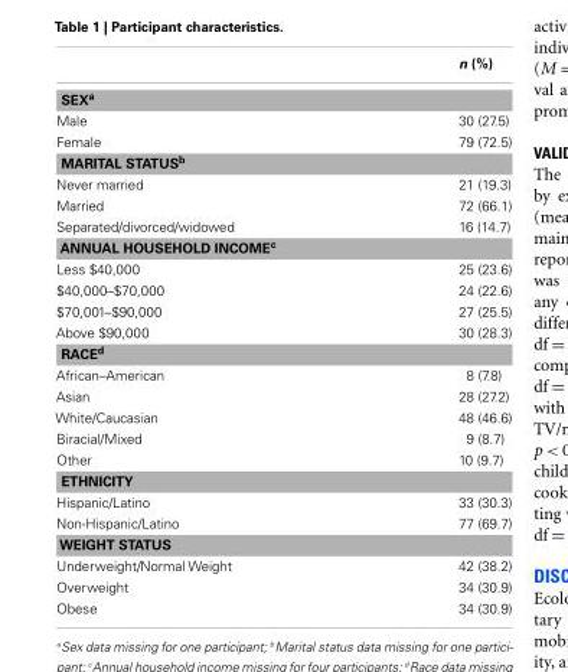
<table><thead><tr><td></td><td>n (%)</td></tr></thead><tbody><tr><td colspan="2">SEX<sup>a</sup></td></tr><tr><td>Male</td><td>30 (27.5)</td></tr><tr><td>Female</td><td>79 (72.5)</td></tr><tr><td colspan="2">MARITAL STATUS<sup>b</sup></td></tr><tr><td>Never married</td><td>21 (19.3)</td></tr><tr><td>Married</td><td>72 (66.1)</td></tr><tr><td>Separated/divorced/widowed</td><td>16 (14.7)</td></tr><tr><td colspan="2">ANNUAL HOUSEHOLD INCOME<sup>c</sup></td></tr><tr><td>Less $40,000</td><td>25 (23.6)</td></tr><tr><td>$40,000–$70,000</td><td>24 (22.6)</td></tr><tr><td>$70,001–$90,000</td><td>27 (25.5)</td></tr><tr><td>Above $90,000</td><td>30 (28.3)</td></tr><tr><td colspan="2">RACE<sup>d</sup></td></tr><tr><td>African–American</td><td>8 (7.8)</td></tr><tr><td>Asian</td><td>28 (27.2)</td></tr><tr><td>White/Caucasian</td><td>48 (46.6)</td></tr><tr><td>Biracial/Mixed</td><td>9 (8.7)</td></tr><tr><td>Other</td><td>10 (9.7)</td></tr><tr><td colspan="2">ETHNICITY</td></tr><tr><td>Hispanic/Latino</td><td>33 (30.3)</td></tr><tr><td>Non-Hispanic/Latino</td><td>77 (69.7)</td></tr><tr><td colspan="2">WEIGHT STATUS</td></tr><tr><td>Underweight/Normal Weight</td><td>42 (38.2)</td></tr><tr><td>Overweight</td><td>34 (30.9)</td></tr><tr><td>Obese</td><td>34 (30.9)</td></tr></tbody></table>